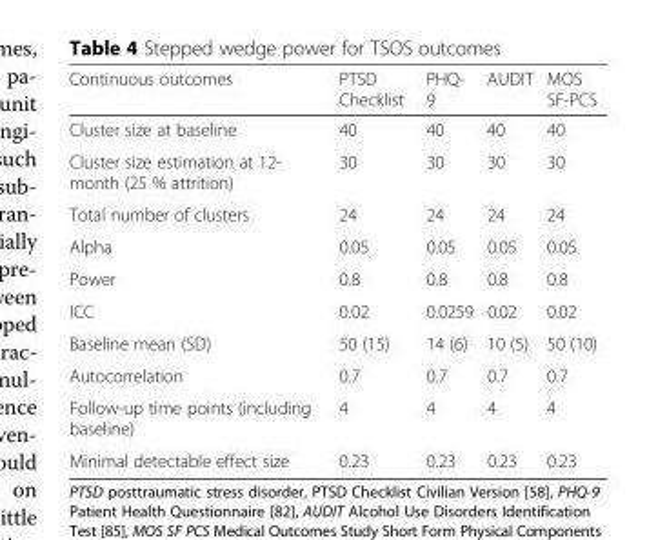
<table><thead><tr><td>Continuous outcomes</td><td>PTSD Checklist</td><td>PHQ- 9</td><td>AUDIT</td><td>MOS SF-PCS</td></tr></thead><tbody><tr><td>Cluster size at baseline</td><td>40</td><td>40</td><td>40</td><td>40</td></tr><tr><td>Cluster size estimation at 12- month (25 % attrition)</td><td>30</td><td>30</td><td>30</td><td>30</td></tr><tr><td>Total number of clusters</td><td>24</td><td>24</td><td>24</td><td>24</td></tr><tr><td>Alpha</td><td>0.05</td><td>0.05</td><td>0.05</td><td>0.05</td></tr><tr><td>Power</td><td>0.8</td><td>0.8</td><td>0.8</td><td>0.8</td></tr><tr><td>ICC</td><td>0.02</td><td>0.0259</td><td>0.02</td><td>0.02</td></tr><tr><td>Baseline mean (SD)</td><td>50 (15)</td><td>14 (6)</td><td>10 (5)</td><td>50 (10)</td></tr><tr><td>Autocorrelation</td><td>0.7</td><td>0.7</td><td>0.7</td><td>0.7</td></tr><tr><td>Follow-up time points (including baseline)</td><td>4</td><td>4</td><td>4</td><td>4</td></tr><tr><td>Minimal detectable effect size</td><td>0.23</td><td>0.23</td><td>0.23</td><td>0.23</td></tr></tbody></table>